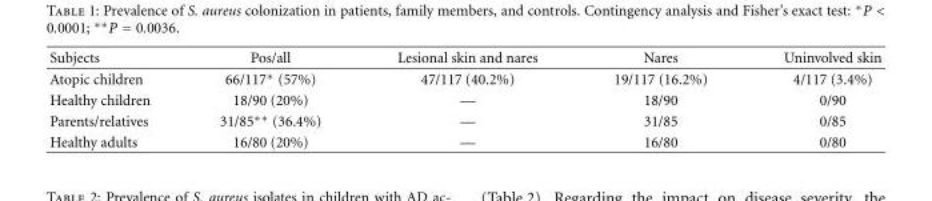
<table><thead><tr><td>Subjects</td><td>Pos/all</td><td>Lesional skin and nares</td><td>Nares</td><td>Uninvolved skin</td></tr></thead><tbody><tr><td>Atopic children</td><td>66/117∗ (57%)</td><td>47/117 (40.2%)</td><td>19/117 (16.2%)</td><td>4/117 (3.4%)</td></tr><tr><td>Healthy children</td><td>18/90 (20%)</td><td>—</td><td>18/90</td><td>0/90</td></tr><tr><td>Parents/relatives</td><td>31/85∗∗ (36.4%)</td><td>—</td><td>31/85</td><td>0/85</td></tr><tr><td>Healthy adults</td><td>16/80 (20%)</td><td>—</td><td>16/80</td><td>0/80</td></tr></tbody></table>